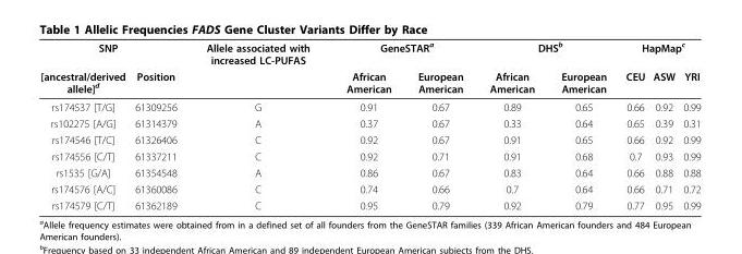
<table><thead><tr><td colspan="2">SNP</td><td rowspan="2">Allele associated with increased LC-PUFAS</td><td colspan="2">GeneSTAR<sup>a</sup></td><td colspan="2">DHS<sup>b</sup></td><td colspan="3">HapMap<sup>c</sup></td></tr><tr><td>[ancestral/derived allele]<sup>d</sup></td><td>Position</td><td>African American</td><td>European American</td><td>African American</td><td>European American</td><td>CEU</td><td>ASW</td><td>YRI</td></tr></thead><tbody><tr><td>rs174537 [T/G]</td><td>61309256</td><td>G</td><td>0.91</td><td>0.67</td><td>0.89</td><td>0.65</td><td>0.66</td><td>0.92</td><td>0.99</td></tr><tr><td>rs102275 [A/G]</td><td>61314379</td><td>A</td><td>0.37</td><td>0.67</td><td>0.33</td><td>0.64</td><td>0.65</td><td>0.39</td><td>0.31</td></tr><tr><td>rs174546 [T/C]</td><td>61326406</td><td>C</td><td>0.92</td><td>0.67</td><td>0.91</td><td>0.65</td><td>0.66</td><td>0.92</td><td>0.99</td></tr><tr><td>rs174556 [C/T]</td><td>61337211</td><td>C</td><td>0.92</td><td>0.71</td><td>0.91</td><td>0.68</td><td>0.7</td><td>0.93</td><td>0.99</td></tr><tr><td>rs1535 [G/A]</td><td>61354548</td><td>A</td><td>0.86</td><td>0.67</td><td>0.83</td><td>0.64</td><td>0.66</td><td>0.88</td><td>0.88</td></tr><tr><td>rs174576 [A/C]</td><td>61360086</td><td>C</td><td>0.74</td><td>0.66</td><td>0.7</td><td>0.64</td><td>0.66</td><td>0.71</td><td>0.72</td></tr><tr><td>rs174579 [C/T]</td><td>61362189</td><td>C</td><td>0.95</td><td>0.79</td><td>0.92</td><td>0.79</td><td>0.77</td><td>0.95</td><td>0.99</td></tr></tbody></table>